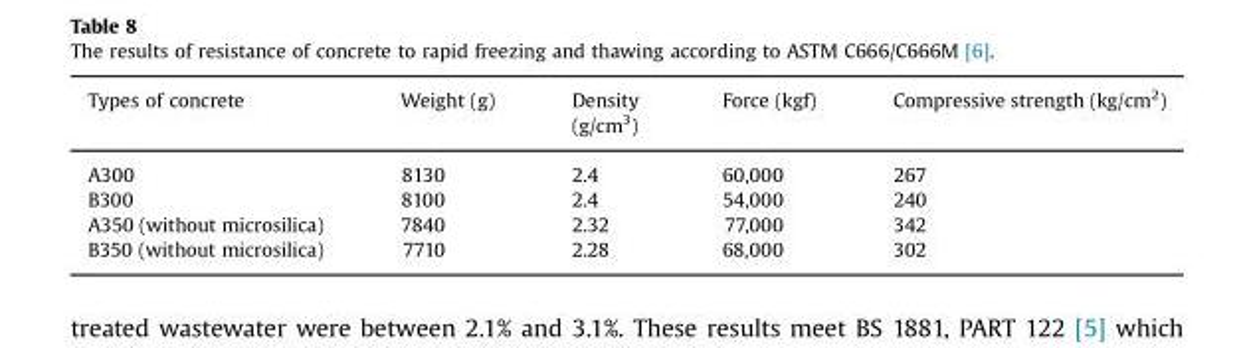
<table><thead><tr><td>Types of concrete</td><td>Weight (g)</td><td>Density (g/cm<sup>3</sup>)</td><td>Force (kgf)</td><td>Compressive strength (kg/cm<sup>2</sup>)</td></tr></thead><tbody><tr><td>A300</td><td>8130</td><td>2.4</td><td>60,000</td><td>267</td></tr><tr><td>B300</td><td>8100</td><td>2.4</td><td>54,000</td><td>240</td></tr><tr><td>A350 (without microsilica)</td><td>7840</td><td>2.32</td><td>77,000</td><td>342</td></tr><tr><td>B350 (without microsilica)</td><td>7710</td><td>2.28</td><td>68,000</td><td>302</td></tr></tbody></table>